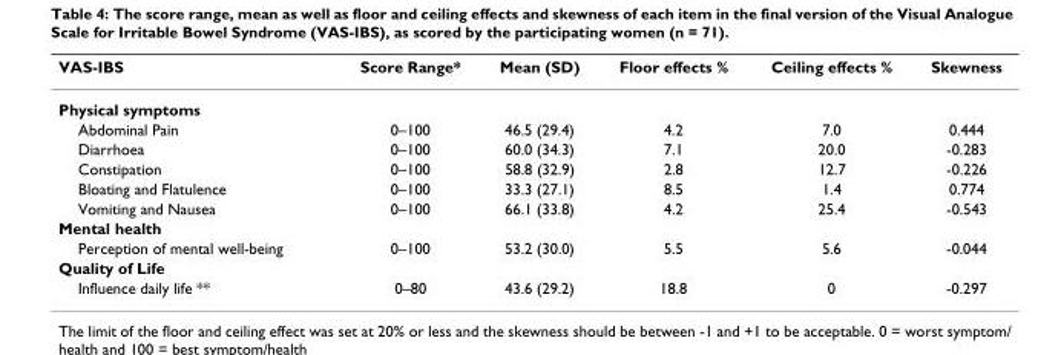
<table><thead><tr><td>VAS-IBS</td><td>Score Range*</td><td>Mean (SD)</td><td>Floor effects %</td><td>Ceiling effects %</td><td>Skewness</td></tr></thead><tbody><tr><td colspan="6">Physical symptoms</td></tr><tr><td>Abdominal Pain</td><td>0–100</td><td>46.5 (29.4)</td><td>4.2</td><td>7.0</td><td>0.444</td></tr><tr><td>Diarrhoea</td><td>0–100</td><td>60.0 (34.3)</td><td>7.1</td><td>20.0</td><td>-0.283</td></tr><tr><td>Constipation</td><td>0–100</td><td>58.8 (32.9)</td><td>2.8</td><td>12.7</td><td>-0.226</td></tr><tr><td>Bloating and Flatulence</td><td>0–100</td><td>33.3 (27.1)</td><td>8.5</td><td>1.4</td><td>0.774</td></tr><tr><td>Vomiting and Nausea</td><td>0–100</td><td>66.1 (33.8)</td><td>4.2</td><td>25.4</td><td>-0.543</td></tr><tr><td colspan="6">Mental health</td></tr><tr><td>Perception of mental well-being</td><td>0–100</td><td>53.2 (30.0)</td><td>5.5</td><td>5.6</td><td>-0.044</td></tr><tr><td colspan="6">Quality of Life</td></tr><tr><td>Influence daily life **</td><td>0–80</td><td>43.6 (29.2)</td><td>18.8</td><td>0</td><td>-0.297</td></tr></tbody></table>